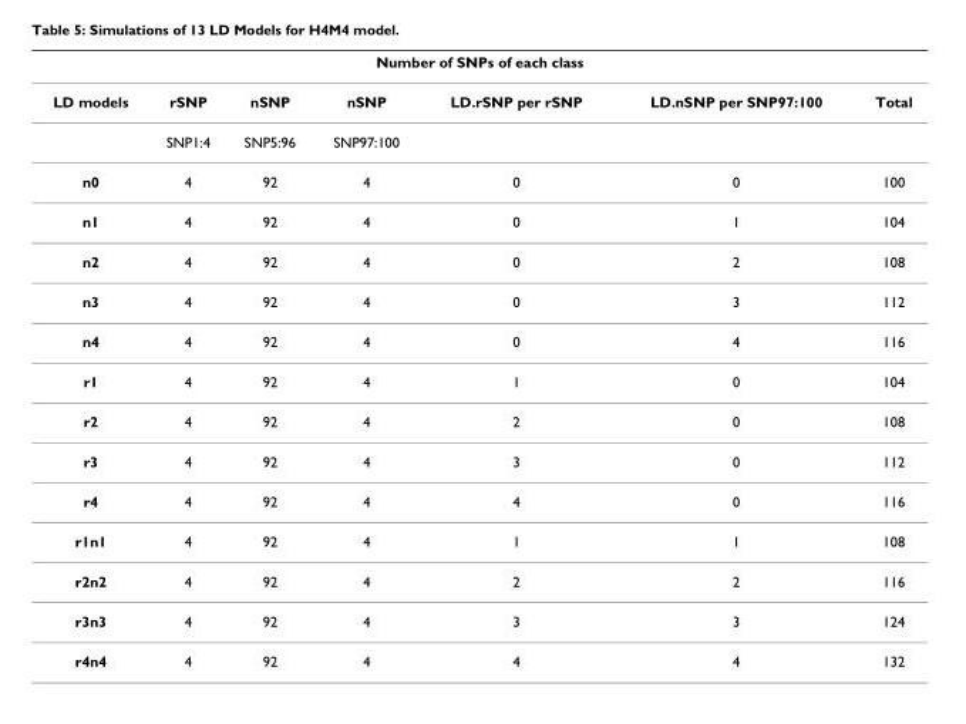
<table><thead><tr><td colspan="7">Number of SNPs of each class</td></tr><tr><td>LD models</td><td>rSNP</td><td>nSNP</td><td>nSNP</td><td>LD.rSNP per rSNP</td><td>LD.nSNP per SNP97:100</td><td>Total</td></tr></thead><tbody><tr><td></td><td>SNP1:4</td><td>SNP5:96</td><td>SNP97:100</td><td></td><td></td><td></td></tr><tr><td>n0</td><td>4</td><td>92</td><td>4</td><td>0</td><td>0</td><td>100</td></tr><tr><td>n1</td><td>4</td><td>92</td><td>4</td><td>0</td><td>1</td><td>104</td></tr><tr><td>n2</td><td>4</td><td>92</td><td>4</td><td>0</td><td>2</td><td>108</td></tr><tr><td>n3</td><td>4</td><td>92</td><td>4</td><td>0</td><td>3</td><td>112</td></tr><tr><td>n4</td><td>4</td><td>92</td><td>4</td><td>0</td><td>4</td><td>116</td></tr><tr><td>r1</td><td>4</td><td>92</td><td>4</td><td>1</td><td>0</td><td>104</td></tr><tr><td>r2</td><td>4</td><td>92</td><td>4</td><td>2</td><td>0</td><td>108</td></tr><tr><td>r3</td><td>4</td><td>92</td><td>4</td><td>3</td><td>0</td><td>112</td></tr><tr><td>r4</td><td>4</td><td>92</td><td>4</td><td>4</td><td>0</td><td>116</td></tr><tr><td>r1n1</td><td>4</td><td>92</td><td>4</td><td>1</td><td>1</td><td>108</td></tr><tr><td>r2n2</td><td>4</td><td>92</td><td>4</td><td>2</td><td>2</td><td>116</td></tr><tr><td>r3n3</td><td>4</td><td>92</td><td>4</td><td>3</td><td>3</td><td>124</td></tr><tr><td>r4n4</td><td>4</td><td>92</td><td>4</td><td>4</td><td>4</td><td>132</td></tr></tbody></table>